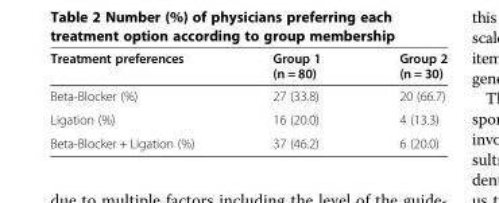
<table><thead><tr><td>Treatment preferences</td><td>Group 1 (n = 80)</td><td>Group 2 (n = 30)</td></tr></thead><tbody><tr><td>Beta-Blocker (%)</td><td>27 (33.8)</td><td>20 (66.7)</td></tr><tr><td>Ligation (%)</td><td>16 (20.0)</td><td>4 (13.3)</td></tr><tr><td>Beta-Blocker + Ligation (%)</td><td>37 (46.2)</td><td>6 (20.0)</td></tr></tbody></table>